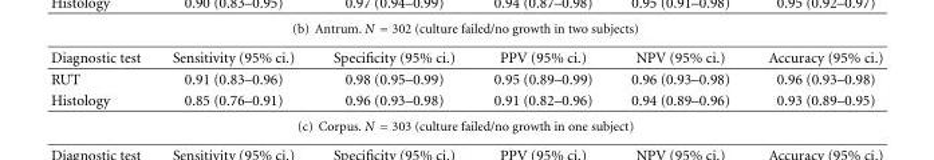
<table><thead><tr><td>Diagnostic test</td><td>Sensitivity (95% ci.)</td><td>Specificity (95% ci.)</td><td>PPV (95% ci.)</td><td>NPV (95% ci.)</td><td>Accuracy (95% ci.)</td></tr></thead><tbody><tr><td>RUT</td><td>0.91 (0.83–0.96)</td><td>0.98 (0.95–0.99)</td><td>0.95 (0.89–0.99)</td><td>0.96 (0.93–0.98)</td><td>0.96 (0.93–0.98)</td></tr><tr><td>Histology</td><td>0.85 (0.76–0.91)</td><td>0.96 (0.93–0.98)</td><td>0.91 (0.82–0.96)</td><td>0.94 (0.89–0.96)</td><td>0.93 (0.89–0.95)</td></tr></tbody></table>